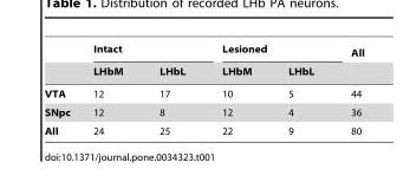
<table><thead><tr><td rowspan="2"></td><td colspan="2">Intact</td><td colspan="2">Lesioned</td><td rowspan="2">All</td></tr><tr><td>LHbM</td><td>LHbL</td><td>LHbM</td><td>LHbL</td></tr></thead><tbody><tr><td>VTA</td><td>12</td><td>17</td><td>10</td><td>5</td><td>44</td></tr><tr><td>SNpc</td><td>12</td><td>8</td><td>12</td><td>4</td><td>36</td></tr><tr><td>All</td><td>24</td><td>25</td><td>22</td><td>9</td><td>80</td></tr></tbody></table>